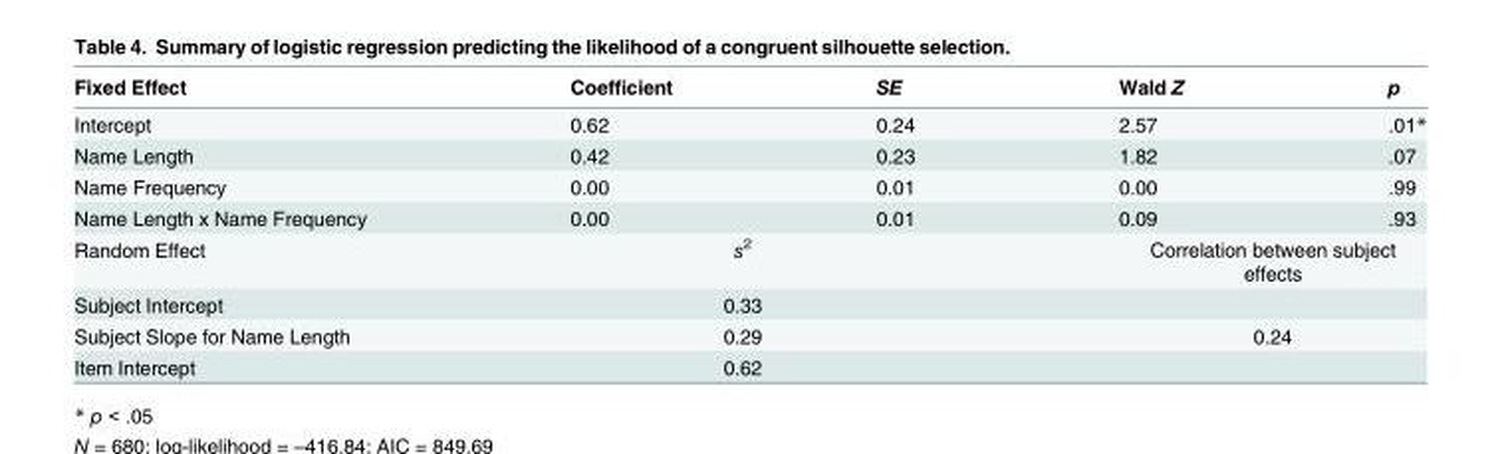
<table><thead><tr><td>Fixed Effect</td><td>Coefficient</td><td>SE</td><td>Wald Z</td><td>p</td></tr></thead><tbody><tr><td>Intercept</td><td>0.62</td><td>0.24</td><td>2.57</td><td>.01*</td></tr><tr><td>Name Length</td><td>0.42</td><td>0.23</td><td>1.82</td><td>.07</td></tr><tr><td>Name Frequency</td><td>0.00</td><td>0.01</td><td>0.00</td><td>.99</td></tr><tr><td>Name Length x Name Frequency</td><td>0.00</td><td>0.01</td><td>0.09</td><td>.93</td></tr><tr><td>Random Effect</td><td colspan="2">s<sup>2</sup></td><td colspan="2">Correlation between subject effects</td></tr><tr><td>Subject Intercept</td><td colspan="2">0.33</td><td colspan="2"></td></tr><tr><td>Subject Slope for Name Length</td><td colspan="2">0.29</td><td colspan="2">0.24</td></tr><tr><td>Item Intercept</td><td colspan="2">0.62</td><td colspan="2"></td></tr></tbody></table>